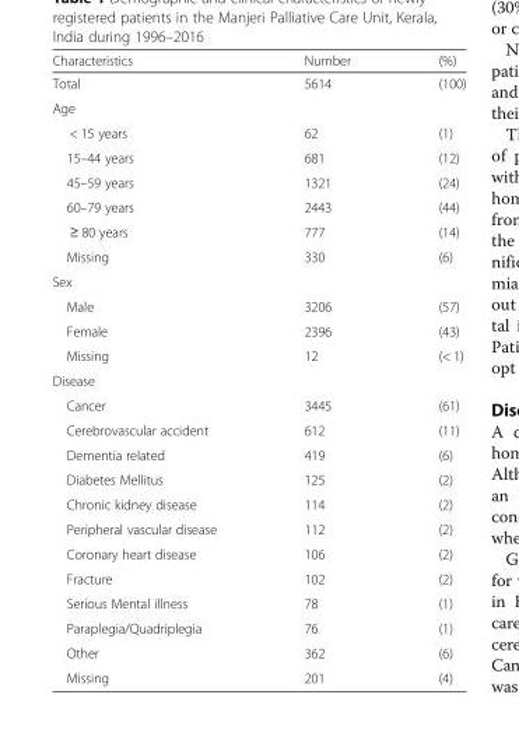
<table><thead><tr><td>Characteristics</td><td>Number</td><td>(%)</td></tr></thead><tbody><tr><td>Total</td><td>5614</td><td>(100)</td></tr><tr><td colspan="3">Age</td></tr><tr><td>&lt; 15 years</td><td>62</td><td>(1)</td></tr><tr><td>15–44 years</td><td>681</td><td>(12)</td></tr><tr><td>45–59 years</td><td>1321</td><td>(24)</td></tr><tr><td>60–79 years</td><td>2443</td><td>(44)</td></tr><tr><td>≥ 80 years</td><td>777</td><td>(14)</td></tr><tr><td>Missing</td><td>330</td><td>(6)</td></tr><tr><td colspan="3">Sex</td></tr><tr><td>Male</td><td>3206</td><td>(57)</td></tr><tr><td>Female</td><td>2396</td><td>(43)</td></tr><tr><td>Missing</td><td>12</td><td>(&lt; 1)</td></tr><tr><td colspan="3">Disease</td></tr><tr><td>Cancer</td><td>3445</td><td>(61)</td></tr><tr><td>Cerebrovascular accident</td><td>612</td><td>(11)</td></tr><tr><td>Dementia related</td><td>419</td><td>(6)</td></tr><tr><td>Diabetes Mellitus</td><td>125</td><td>(2)</td></tr><tr><td>Chronic kidney disease</td><td>114</td><td>(2)</td></tr><tr><td>Peripheral vascular disease</td><td>112</td><td>(2)</td></tr><tr><td>Coronary heart disease</td><td>106</td><td>(2)</td></tr><tr><td>Fracture</td><td>102</td><td>(2)</td></tr><tr><td>Serious Mental illness</td><td>78</td><td>(1)</td></tr><tr><td>Paraplegia/Quadriplegia</td><td>76</td><td>(1)</td></tr><tr><td>Other</td><td>362</td><td>(6)</td></tr><tr><td>Missing</td><td>201</td><td>(4)</td></tr></tbody></table>